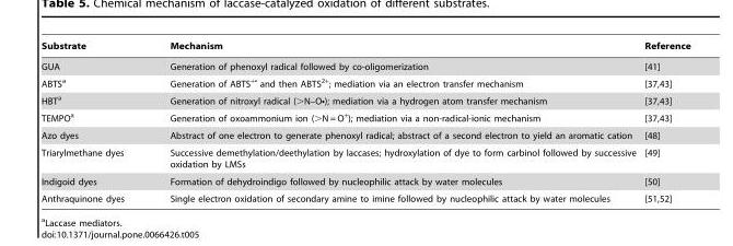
<table><thead><tr><td>Substrate</td><td>Mechanism</td><td>Reference</td></tr></thead><tbody><tr><td>GUA</td><td>Generation of phenoxyl radical followed by co-oligomerization</td><td>[41]</td></tr><tr><td>ABTS<sup>a</sup></td><td>Generation of ABTS<sup>+•</sup> and then ABTS<sup>2+</sup>; mediation via an electron transfer mechanism</td><td>[37,43]</td></tr><tr><td>HBT<sup>a</sup></td><td>Generation of nitroxyl radical (&gt;N–O•); mediation via a hydrogen atom transfer mechanism</td><td>[37,43]</td></tr><tr><td>TEMPO<sup>a</sup></td><td>Generation of oxoammonium ion (&gt;N = O<sup>+</sup>); mediation via a non-radical-ionic mechanism</td><td>[37,43]</td></tr><tr><td>Azo dyes</td><td>Abstract of one electron to generate phenoxyl radical; abstract of a second electron to yield an aromatic cation</td><td>[48]</td></tr><tr><td>Triarylmethane dyes</td><td>Successive demethylation/deethylation by laccases; hydroxylation of dye to form carbinol followed by successive oxidation by LMSs</td><td>[49]</td></tr><tr><td>Indigoid dyes</td><td>Formation of dehydroindigo followed by nucleophilic attack by water molecules</td><td>[50]</td></tr><tr><td>Anthraquinone dyes</td><td>Single electron oxidation of secondary amine to imine followed by nucleophilic attack by water molecules</td><td>[51,52]</td></tr></tbody></table>